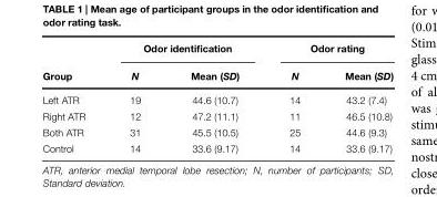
<table><thead><tr><td rowspan="2">Group</td><td colspan="2">Odor identification</td><td colspan="2">Odor rating</td></tr><tr><td>N</td><td>Mean (SD)</td><td>N</td><td>Mean (SD)</td></tr></thead><tbody><tr><td>Left ATR</td><td>19</td><td>44.6 (10.7)</td><td>14</td><td>43.2 (7.4)</td></tr><tr><td>Right ATR</td><td>12</td><td>47.2 (11.1)</td><td>11</td><td>46.5 (10.8)</td></tr><tr><td>Both ATR</td><td>31</td><td>45.5 (10.5)</td><td>25</td><td>44.6 (9.3)</td></tr><tr><td>Control</td><td>14</td><td>33.6 (9.17)</td><td>14</td><td>33.6 (9.17)</td></tr></tbody></table>